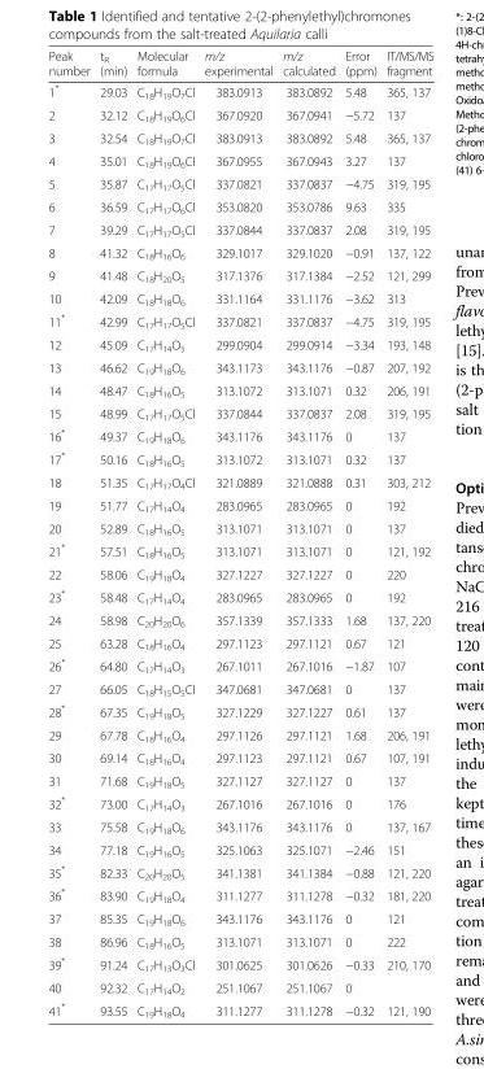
<table><thead><tr><td>Peak number</td><td>t<sub>R</sub> (min)</td><td>Molecular formula</td><td>m/z experimental</td><td>m/z calculated</td><td>Error (ppm)</td><td>IT/MS/MS fragment</td></tr></thead><tbody><tr><td>1*</td><td>29.03</td><td>C<sub>18</sub>H<sub>19</sub>O<sub>7</sub>Cl</td><td>383.0913</td><td>383.0892</td><td>5.48</td><td>365, 137</td></tr><tr><td>2</td><td>32.12</td><td>C<sub>18</sub>H<sub>19</sub>O<sub>6</sub>Cl</td><td>367.0920</td><td>367.0941</td><td>−5.72</td><td>137</td></tr><tr><td>3</td><td>32.54</td><td>C<sub>18</sub>H<sub>19</sub>O<sub>7</sub>Cl</td><td>383.0913</td><td>383.0892</td><td>5.48</td><td>365, 137</td></tr><tr><td>4</td><td>35.01</td><td>C<sub>18</sub>H<sub>19</sub>O<sub>6</sub>Cl</td><td>367.0955</td><td>367.0943</td><td>3.27</td><td>137</td></tr><tr><td>5</td><td>35.87</td><td>C<sub>17</sub>H<sub>17</sub>O<sub>5</sub>Cl</td><td>337.0821</td><td>337.0837</td><td>−4.75</td><td>319, 195</td></tr><tr><td>6</td><td>36.59</td><td>C<sub>17</sub>H<sub>17</sub>O<sub>6</sub>Cl</td><td>353.0820</td><td>353.0786</td><td>9.63</td><td>335</td></tr><tr><td>7</td><td>39.29</td><td>C<sub>17</sub>H<sub>17</sub>O<sub>5</sub>Cl</td><td>337.0844</td><td>337.0837</td><td>2.08</td><td>319, 195</td></tr><tr><td>8</td><td>41.32</td><td>C<sub>18</sub>H<sub>16</sub>O<sub>6</sub></td><td>329.1017</td><td>329.1020</td><td>−0.91</td><td>137, 122</td></tr><tr><td>9</td><td>41.48</td><td>C<sub>18</sub>H<sub>20</sub>O<sub>5</sub></td><td>317.1376</td><td>317.1384</td><td>−2.52</td><td>121, 299</td></tr><tr><td>10</td><td>42.09</td><td>C<sub>18</sub>H<sub>18</sub>O<sub>6</sub></td><td>331.1164</td><td>331.1176</td><td>−3.62</td><td>313</td></tr><tr><td>11*</td><td>42.99</td><td>C<sub>17</sub>H<sub>17</sub>O<sub>5</sub>Cl</td><td>337.0821</td><td>337.0837</td><td>−4.75</td><td>319, 195</td></tr><tr><td>12</td><td>45.09</td><td>C<sub>17</sub>H<sub>14</sub>O<sub>5</sub></td><td>299.0904</td><td>299.0914</td><td>−3.34</td><td>193, 148</td></tr><tr><td>13</td><td>46.62</td><td>C<sub>19</sub>H<sub>18</sub>O<sub>6</sub></td><td>343.1173</td><td>343.1176</td><td>−0.87</td><td>207, 192</td></tr><tr><td>14</td><td>48.47</td><td>C<sub>18</sub>H<sub>16</sub>O<sub>5</sub></td><td>313.1072</td><td>313.1071</td><td>0.32</td><td>206, 191</td></tr><tr><td>15</td><td>48.99</td><td>C<sub>17</sub>H<sub>17</sub>O<sub>5</sub>Cl</td><td>337.0844</td><td>337.0837</td><td>2.08</td><td>319, 195</td></tr><tr><td>16*</td><td>49.37</td><td>C<sub>19</sub>H<sub>18</sub>O<sub>6</sub></td><td>343.1176</td><td>343.1176</td><td>0</td><td>137</td></tr><tr><td>17*</td><td>50.16</td><td>C<sub>18</sub>H<sub>16</sub>O<sub>5</sub></td><td>313.1072</td><td>313.1071</td><td>0.32</td><td>137</td></tr><tr><td>18</td><td>51.35</td><td>C<sub>17</sub>H<sub>17</sub>O<sub>4</sub>Cl</td><td>321.0889</td><td>321.0888</td><td>0.31</td><td>303, 212</td></tr><tr><td>19</td><td>51.77</td><td>C<sub>17</sub>H<sub>14</sub>O<sub>4</sub></td><td>283.0965</td><td>283.0965</td><td>0</td><td>192</td></tr><tr><td>20</td><td>52.89</td><td>C<sub>18</sub>H<sub>16</sub>O<sub>5</sub></td><td>313.1071</td><td>313.1071</td><td>0</td><td>137</td></tr><tr><td>21*</td><td>57.51</td><td>C<sub>18</sub>H<sub>16</sub>O<sub>5</sub></td><td>313.1071</td><td>313.1071</td><td>0</td><td>121, 192</td></tr><tr><td>22</td><td>58.06</td><td>C<sub>19</sub>H<sub>18</sub>O<sub>4</sub></td><td>327.1227</td><td>327.1227</td><td>0</td><td>220</td></tr><tr><td>23*</td><td>58.48</td><td>C<sub>17</sub>H<sub>14</sub>O<sub>4</sub></td><td>283.0965</td><td>283.0965</td><td>0</td><td>192</td></tr><tr><td>24</td><td>58.98</td><td>C<sub>20</sub>H<sub>20</sub>O<sub>6</sub></td><td>357.1339</td><td>357.1333</td><td>1.68</td><td>137, 220</td></tr><tr><td>25</td><td>63.28</td><td>C<sub>18</sub>H<sub>16</sub>O<sub>4</sub></td><td>297.1123</td><td>297.1121</td><td>0.67</td><td>121</td></tr><tr><td>26*</td><td>64.80</td><td>C<sub>17</sub>H<sub>14</sub>O<sub>3</sub></td><td>267.1011</td><td>267.1016</td><td>−1.87</td><td>107</td></tr><tr><td>27</td><td>66.05</td><td>C<sub>18</sub>H<sub>15</sub>O<sub>5</sub>Cl</td><td>347.0681</td><td>347.0681</td><td>0</td><td>137</td></tr><tr><td>28*</td><td>67.35</td><td>C<sub>19</sub>H<sub>18</sub>O<sub>5</sub></td><td>327.1229</td><td>327.1227</td><td>0.61</td><td>137</td></tr><tr><td>29</td><td>67.78</td><td>C<sub>18</sub>H<sub>16</sub>O<sub>4</sub></td><td>297.1126</td><td>297.1121</td><td>1.68</td><td>206, 191</td></tr><tr><td>30</td><td>69.14</td><td>C<sub>18</sub>H<sub>16</sub>O<sub>4</sub></td><td>297.1123</td><td>297.1121</td><td>0.67</td><td>107, 191</td></tr><tr><td>31</td><td>71.68</td><td>C<sub>19</sub>H<sub>18</sub>O<sub>5</sub></td><td>327.1127</td><td>327.1127</td><td>0</td><td>137</td></tr><tr><td>32*</td><td>73.00</td><td>C<sub>17</sub>H<sub>14</sub>O<sub>3</sub></td><td>267.1016</td><td>267.1016</td><td>0</td><td>176</td></tr><tr><td>33</td><td>75.58</td><td>C<sub>19</sub>H<sub>18</sub>O<sub>6</sub></td><td>343.1176</td><td>343.1176</td><td>0</td><td>137, 167</td></tr><tr><td>34</td><td>77.18</td><td>C<sub>19</sub>H<sub>16</sub>O<sub>5</sub></td><td>325.1063</td><td>325.1071</td><td>−2.46</td><td>151</td></tr><tr><td>35*</td><td>82.33</td><td>C<sub>20</sub>H<sub>20</sub>O<sub>5</sub></td><td>341.1381</td><td>341.1384</td><td>−0.88</td><td>121, 220</td></tr><tr><td>36*</td><td>83.90</td><td>C<sub>19</sub>H<sub>18</sub>O<sub>4</sub></td><td>311.1277</td><td>311.1278</td><td>−0.32</td><td>181, 220</td></tr><tr><td>37</td><td>85.35</td><td>C<sub>19</sub>H<sub>18</sub>O<sub>6</sub></td><td>343.1176</td><td>343.1176</td><td>0</td><td>121</td></tr><tr><td>38</td><td>86.96</td><td>C<sub>18</sub>H<sub>16</sub>O<sub>5</sub></td><td>313.1071</td><td>313.1071</td><td>0</td><td>222</td></tr><tr><td>39*</td><td>91.24</td><td>C<sub>17</sub>H<sub>13</sub>O<sub>3</sub>Cl</td><td>301.0625</td><td>301.0626</td><td>−0.33</td><td>210, 170</td></tr><tr><td>40</td><td>92.32</td><td>C<sub>17</sub>H<sub>14</sub>O<sub>2</sub></td><td>251.1067</td><td>251.1067</td><td>0</td><td></td></tr><tr><td>41*</td><td>93.55</td><td>C<sub>19</sub>H<sub>18</sub>O<sub>4</sub></td><td>311.1277</td><td>311.1278</td><td>−0.32</td><td>121, 190</td></tr></tbody></table>